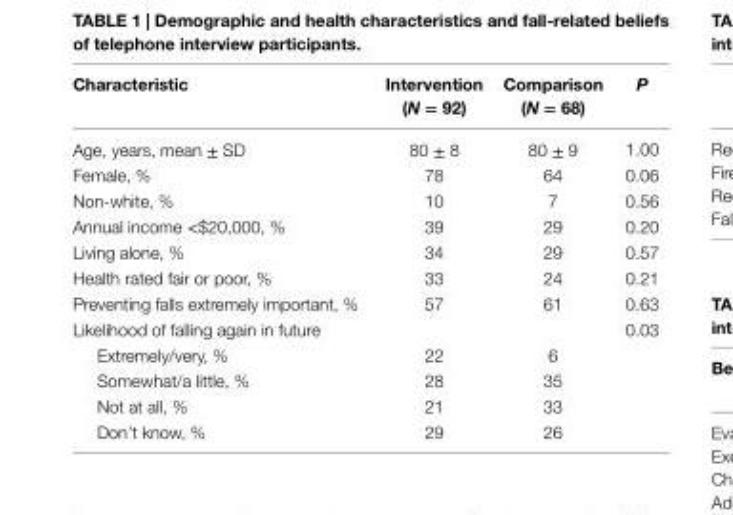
<table><thead><tr><td>Characteristic</td><td>intervention (N = 92)</td><td>Comparison (N = 68)</td><td>P</td></tr></thead><tbody><tr><td>Age, years, mean ± SD</td><td>80 ± 8</td><td>80 ± 9</td><td>1.00</td></tr><tr><td>Female, %</td><td>78</td><td>64</td><td>0.06</td></tr><tr><td>Non-white, %</td><td>10</td><td>7</td><td>0.56</td></tr><tr><td>Annual income &lt;$20,000, %</td><td>39</td><td>29</td><td>0.20</td></tr><tr><td>Living alone, %</td><td>34</td><td>29</td><td>0.57</td></tr><tr><td>Health rated fair or poor, %</td><td>33</td><td>24</td><td>0.21</td></tr><tr><td>Preventing falls extremely important, %</td><td>57</td><td>61</td><td>0.63</td></tr><tr><td>Likelihood of falling again in future</td><td></td><td></td><td>0.03</td></tr><tr><td>Extremely/very, %</td><td>22</td><td>6</td><td></td></tr><tr><td>Somewhat/a little, %</td><td>28</td><td>35</td><td></td></tr><tr><td>Not at all, %</td><td>21</td><td>33</td><td></td></tr><tr><td>Don’t know, %</td><td>29</td><td>26</td><td></td></tr></tbody></table>